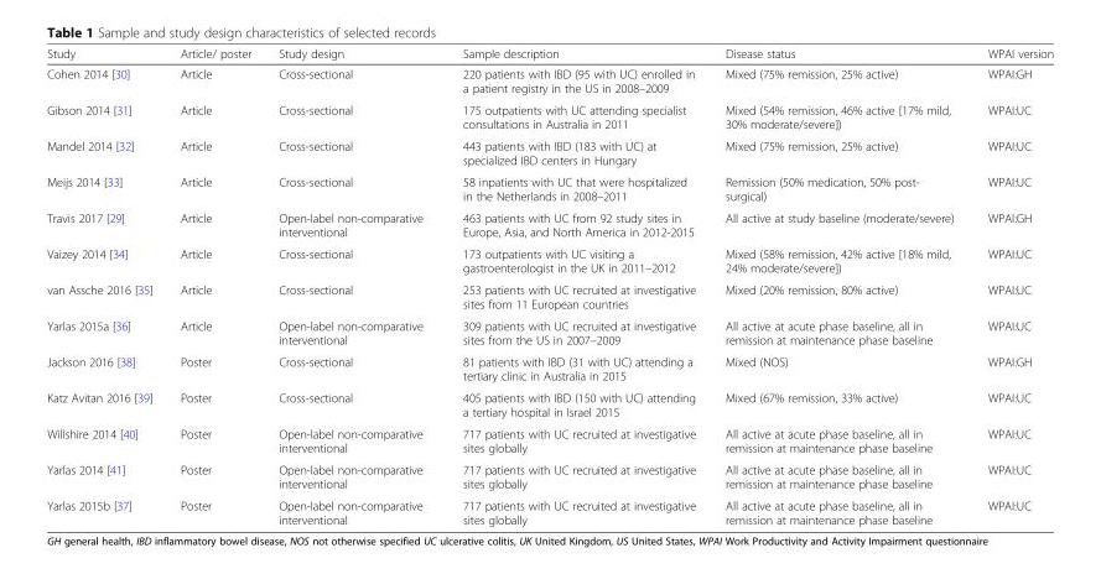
<table><thead><tr><td>Study</td><td>Article/ poster</td><td>Study design</td><td>Sample description</td><td>Disease status</td><td>WPAI version</td></tr></thead><tbody><tr><td>Cohen 2014 [30]</td><td>Article</td><td>Cross-sectional</td><td>220 patients with IBD (95 with UC) enrolled in a patient registry in the US in 2008–2009</td><td>Mixed (75% remission, 25% active)</td><td>WPAI:GH</td></tr><tr><td>Gibson 2014 [31]</td><td>Article</td><td>Cross-sectional</td><td>175 outpatients with UC attending specialist consultations in Australia in 2011</td><td>Mixed (54% remission, 46% active [17% mild, 30% moderate/severe])</td><td>WPAI:UC</td></tr><tr><td>Mandel 2014 [32]</td><td>Article</td><td>Cross-sectional</td><td>443 patients with IBD (183 with UC) at specialized IBD centers in Hungary</td><td>Mixed (75% remission, 25% active)</td><td>WPAI:UC</td></tr><tr><td>Meijs 2014 [33]</td><td>Article</td><td>Cross-sectional</td><td>58 inpatients with UC that were hospitalized in the Netherlands in 2008–2011</td><td>Remission (50% medication, 50% post- surgical)</td><td>WPAI:UC</td></tr><tr><td>Travis 2017 [29]</td><td>Article</td><td>Open-label non-comparative interventional</td><td>463 patients with UC from 92 study sites in Europe, Asia, and North America in 2012-2015</td><td>All active at study baseline (moderate/severe)</td><td>WPAI:GH</td></tr><tr><td>Vaizey 2014 [34]</td><td>Article</td><td>Cross-sectional</td><td>173 outpatients with UC visiting a gastroenterologist in the UK in 2011–2012</td><td>Mixed (58% remission, 42% active [18% mild, 24% moderate/severe])</td><td>WPAI:UC</td></tr><tr><td>van Assche 2016 [35]</td><td>Article</td><td>Cross-sectional</td><td>253 patients with UC recruited at investigative sites from 11 European countries</td><td>Mixed (20% remission, 80% active)</td><td>WPAI:UC</td></tr><tr><td>Yarlas 2015a [36]</td><td>Article</td><td>Open-label non-comparative interventional</td><td>309 patients with UC recruited at investigative sites from the US in 2007–2009</td><td>All active at acute phase baseline, all in remission at maintenance phase baseline</td><td>WPAI:UC</td></tr><tr><td>Jackson 2016 [38]</td><td>Poster</td><td>Cross-sectional</td><td>81 patients with IBD (31 with UC) attending a tertiary clinic in Australia in 2015</td><td>Mixed (NOS)</td><td>WPAI:GH</td></tr><tr><td>Katz Avitan 2016 [39]</td><td>Poster</td><td>Cross-sectional</td><td>405 patients with IBD (150 with UC) attending a tertiary hospital in Israel 2015</td><td>Mixed (67% remission, 33% active)</td><td>WPAI:UC</td></tr><tr><td>Willshire 2014 [40]</td><td>Poster</td><td>Open-label non-comparative interventional</td><td>717 patients with UC recruited at investigative sites globally</td><td>All active at acute phase baseline, all in remission at maintenance phase baseline</td><td>WPAI:UC</td></tr><tr><td>Yarlas 2014 [41]</td><td>Poster</td><td>Open-label non-comparative interventional</td><td>717 patients with UC recruited at investigative sites globally</td><td>All active at acute phase baseline, all in remission at maintenance phase baseline</td><td>WPAI:UC</td></tr><tr><td>Yarlas 2015b [37]</td><td>Poster</td><td>Open-label non-comparative interventional</td><td>717 patients with UC recruited at investigative sites globally</td><td>All active at acute phase baseline, all in remission at maintenance phase baseline</td><td>WPAI:UC</td></tr></tbody></table>